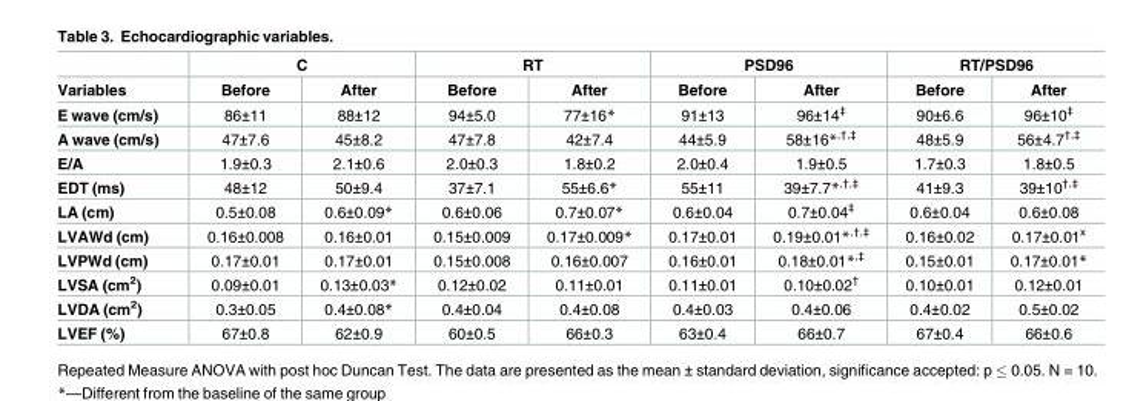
<table><thead><tr><td rowspan="2">Variables</td><td colspan="2">C</td><td colspan="2">RT</td><td colspan="2">PSD96</td><td colspan="2">RT/PSD96</td></tr><tr><td>Before</td><td>After</td><td>Before</td><td>After</td><td>Before</td><td>After</td><td>Before</td><td>After</td></tr></thead><tbody><tr><td>E wave (cm/s)</td><td>86±11</td><td>88±12</td><td>94±5.0</td><td>77±16*</td><td>91±13</td><td>96±14<sup>‡</sup></td><td>90±6.6</td><td>96±10<sup>‡</sup></td></tr><tr><td>A wave (cm/s)</td><td>47±7.6</td><td>45±8.2</td><td>47±7.8</td><td>42±7.4</td><td>44±5.9</td><td>58±16*<sup>,†,‡</sup></td><td>48±5.9</td><td>56±4.7<sup>†,‡</sup></td></tr><tr><td>E/A</td><td>1.9±0.3</td><td>2.1±0.6</td><td>2.0±0.3</td><td>1.8±0.2</td><td>2.0±0.4</td><td>1.9±0.5</td><td>1.7±0.3</td><td>1.8±0.5</td></tr><tr><td>EDT (ms)</td><td>48±12</td><td>50±9.4</td><td>37±7.1</td><td>55±6.6*</td><td>55±11</td><td>39±7.7*<sup>,†,‡</sup></td><td>41±9.3</td><td>39±10<sup>†,‡</sup></td></tr><tr><td>LA (cm)</td><td>0.5±0.08</td><td>0.6±0.09*</td><td>0.6±0.06</td><td>0.7±0.07*</td><td>0.6±0.04</td><td>0.7±0.04<sup>‡</sup></td><td>0.6±0.04</td><td>0.6±0.08</td></tr><tr><td>LVAWd (cm)</td><td>0.16±0.008</td><td>0.16±0.01</td><td>0.15±0.009</td><td>0.17±0.009*</td><td>0.17±0.01</td><td>0.19±0.01*<sup>,†,‡</sup></td><td>0.16±0.02</td><td>0.17±0.01<sup>x</sup></td></tr><tr><td>LVPWd (cm)</td><td>0.17±0.01</td><td>0.17±0.01</td><td>0.15±0.008</td><td>0.16±0.007</td><td>0.16±0.01</td><td>0.18±0.01*<sup>,‡</sup></td><td>0.15±0.01</td><td>0.17±0.01*</td></tr><tr><td>LVSA (cm<sup>2</sup>)</td><td>0.09±0.01</td><td>0.13±0.03*</td><td>0.12±0.02</td><td>0.11±0.01</td><td>0.11±0.01</td><td>0.10±0.02<sup>†</sup></td><td>0.10±0.01</td><td>0.12±0.01</td></tr><tr><td>LVDA (cm<sup>2</sup>)</td><td>0.3±0.05</td><td>0.4±0.08*</td><td>0.4±0.04</td><td>0.4±0.08</td><td>0.4±0.03</td><td>0.4±0.06</td><td>0.4±0.02</td><td>0.5±0.02</td></tr><tr><td>LVEF (%)</td><td>67±0.8</td><td>62±0.9</td><td>60±0.5</td><td>66±0.3</td><td>63±0.4</td><td>66±0.7</td><td>67±0.4</td><td>66±0.6</td></tr></tbody></table>